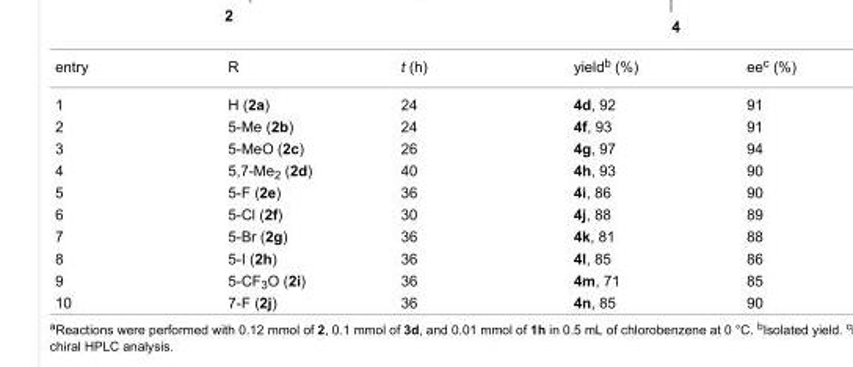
<table><tbody><tr><td>entry</td><td>R</td><td>t (h)</td><td>yield<sup>b</sup> (%)</td><td>ee<sup>c</sup> (%)</td></tr><tr><td>1</td><td>H (2a)</td><td>24</td><td>4d, 92</td><td>91</td></tr><tr><td>2</td><td>5-Me (2b)</td><td>24</td><td>4f, 93</td><td>91</td></tr><tr><td>3</td><td>5-MeO (2c)</td><td>26</td><td>4g, 97</td><td>94</td></tr><tr><td>4</td><td>5,7-Me<sub>2</sub> (2d)</td><td>40</td><td>4h, 93</td><td>90</td></tr><tr><td>5</td><td>5-F (2e)</td><td>36</td><td>4i, 86</td><td>90</td></tr><tr><td>6</td><td>5-Cl (2f)</td><td>30</td><td>4j, 88</td><td>89</td></tr><tr><td>7</td><td>5-Br (2g)</td><td>36</td><td>4k, 81</td><td>88</td></tr><tr><td>8</td><td>5-I (2h)</td><td>36</td><td>4l, 85</td><td>86</td></tr><tr><td>9</td><td>5-CF<sub>3</sub>O (2i)</td><td>36</td><td>4m, 71</td><td>85</td></tr><tr><td>10</td><td>7-F (2j)</td><td>36</td><td>4n, 85</td><td>90</td></tr></tbody></table>